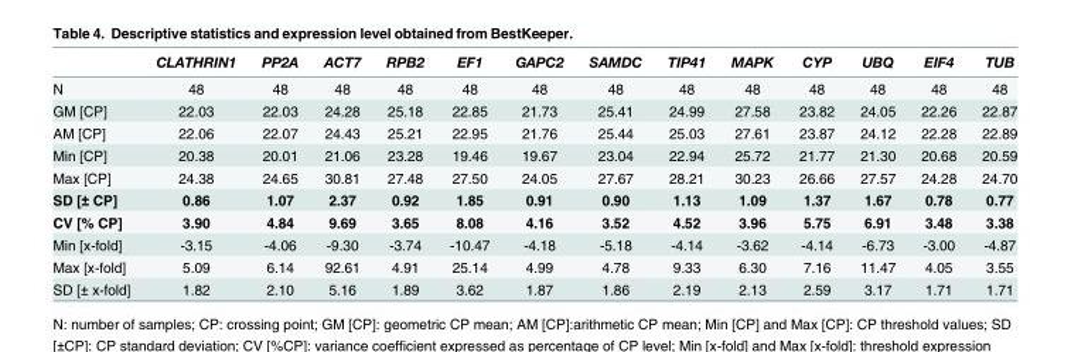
<table><thead><tr><td></td><td>CLATHRIN1</td><td>PP2A</td><td>ACT7</td><td>RPB2</td><td>EF1</td><td>GAPC2</td><td>SAMDC</td><td>TIP41</td><td>MAPK</td><td>CYP</td><td>UBQ</td><td>EIF4</td><td>TUB</td></tr></thead><tbody><tr><td>N</td><td>48</td><td>48</td><td>48</td><td>48</td><td>48</td><td>48</td><td>48</td><td>48</td><td>48</td><td>48</td><td>48</td><td>48</td><td>48</td></tr><tr><td>GM [CP]</td><td>22.03</td><td>22.03</td><td>24.28</td><td>25.18</td><td>22.85</td><td>21.73</td><td>25.41</td><td>24.99</td><td>27.58</td><td>23.82</td><td>24.05</td><td>22.26</td><td>22.87</td></tr><tr><td>AM [CP]</td><td>22.06</td><td>22.07</td><td>24.43</td><td>25.21</td><td>22.95</td><td>21.76</td><td>25.44</td><td>25.03</td><td>27.61</td><td>23.87</td><td>24.12</td><td>22.28</td><td>22.89</td></tr><tr><td>Min [CP]</td><td>20.38</td><td>20.01</td><td>21.06</td><td>23.28</td><td>19.46</td><td>19.67</td><td>23.04</td><td>22.94</td><td>25.72</td><td>21.77</td><td>21.30</td><td>20.68</td><td>20.59</td></tr><tr><td>Max [CP]</td><td>24.38</td><td>24.65</td><td>30.81</td><td>27.48</td><td>27.50</td><td>24.05</td><td>27.67</td><td>28.21</td><td>30.23</td><td>26.66</td><td>27.57</td><td>24.28</td><td>24.70</td></tr><tr><td>SD [± CP]</td><td>0.86</td><td>1.07</td><td>2.37</td><td>0.92</td><td>1.85</td><td>0.91</td><td>0.90</td><td>1.13</td><td>1.09</td><td>1.37</td><td>1.67</td><td>0.78</td><td>0.77</td></tr><tr><td>CV [% CP]</td><td>3.90</td><td>4.84</td><td>9.69</td><td>3.65</td><td>8.08</td><td>4.16</td><td>3.52</td><td>4.52</td><td>3.96</td><td>5.75</td><td>6.91</td><td>3.48</td><td>3.38</td></tr><tr><td>Min [x-fold]</td><td>-3.15</td><td>-4.06</td><td>-9.30</td><td>-3.74</td><td>-10.47</td><td>-4.18</td><td>-5.18</td><td>-4.14</td><td>-3.62</td><td>-4.14</td><td>-6.73</td><td>-3.00</td><td>-4.87</td></tr><tr><td>Max [x-fold]</td><td>5.09</td><td>6.14</td><td>92.61</td><td>4.91</td><td>25.14</td><td>4.99</td><td>4.78</td><td>9.33</td><td>6.30</td><td>7.16</td><td>11.47</td><td>4.05</td><td>3.55</td></tr><tr><td>SD [± x-fold]</td><td>1.82</td><td>2.10</td><td>5.16</td><td>1.89</td><td>3.62</td><td>1.87</td><td>1.86</td><td>2.19</td><td>2.13</td><td>2.59</td><td>3.17</td><td>1.71</td><td>1.71</td></tr></tbody></table>